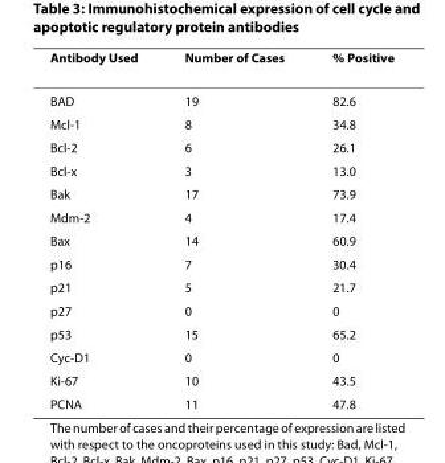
<table><thead><tr><td>Antibody Used</td><td>Number of Cases</td><td>% Positive</td></tr></thead><tbody><tr><td>BAD</td><td>19</td><td>82.6</td></tr><tr><td>Mcl-1</td><td>8</td><td>34.8</td></tr><tr><td>Bcl-2</td><td>6</td><td>26.1</td></tr><tr><td>Bcl-x</td><td>3</td><td>13.0</td></tr><tr><td>Bak</td><td>17</td><td>73.9</td></tr><tr><td>Mdm-2</td><td>4</td><td>17.4</td></tr><tr><td>Bax</td><td>14</td><td>60.9</td></tr><tr><td>p16</td><td>7</td><td>30.4</td></tr><tr><td>p21</td><td>5</td><td>21.7</td></tr><tr><td>p27</td><td>0</td><td>0</td></tr><tr><td>p53</td><td>15</td><td>65.2</td></tr><tr><td>Cyc-D1</td><td>0</td><td>0</td></tr><tr><td>Ki-67</td><td>10</td><td>43.5</td></tr><tr><td>PCNA</td><td>11</td><td>47.8</td></tr></tbody></table>